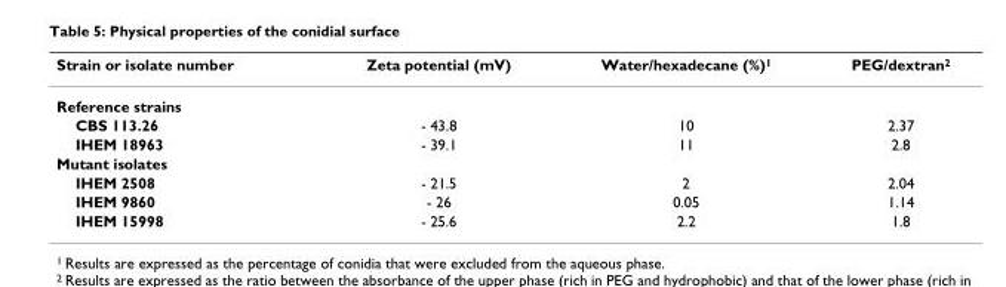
<table><thead><tr><td>Strain or isolate number</td><td>Zeta potential (mV)</td><td>Water/hexadecane (%)<sup>1</sup></td><td>PEG/dextran<sup>2</sup></td></tr></thead><tbody><tr><td colspan="4">Reference strains</td></tr><tr><td>CBS 113.26</td><td>- 43.8</td><td>10</td><td>2.37</td></tr><tr><td>IHEM 18963</td><td>- 39.1</td><td>11</td><td>2.8</td></tr><tr><td colspan="4">Mutant isolates</td></tr><tr><td>IHEM 2508</td><td>- 21.5</td><td>2</td><td>2.04</td></tr><tr><td>IHEM 9860</td><td>- 26</td><td>0.05</td><td>1.14</td></tr><tr><td>IHEM 15998</td><td>- 25.6</td><td>2.2</td><td>1.8</td></tr></tbody></table>